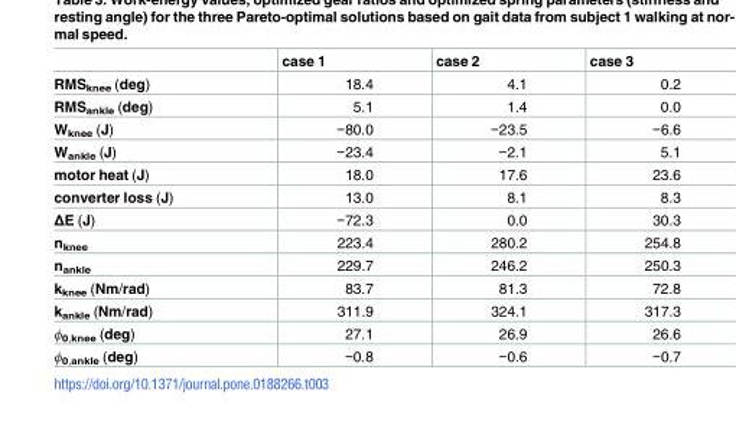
<table><thead><tr><td></td><td>case 1</td><td>case 2</td><td>case 3</td></tr></thead><tbody><tr><td>RMS<sub>knee</sub> (deg)</td><td>18.4</td><td>4.1</td><td>0.2</td></tr><tr><td>RMS<sub>ankle</sub> (deg)</td><td>5.1</td><td>1.4</td><td>0.0</td></tr><tr><td>W<sub>knee</sub> (J)</td><td>−80.0</td><td>−23.5</td><td>−6.6</td></tr><tr><td>W<sub>ankle</sub> (J)</td><td>−23.4</td><td>−2.1</td><td>5.1</td></tr><tr><td>motor heat (J)</td><td>18.0</td><td>17.6</td><td>23.6</td></tr><tr><td>converter loss (J)</td><td>13.0</td><td>8.1</td><td>8.3</td></tr><tr><td>ΔE (J)</td><td>−72.3</td><td>0.0</td><td>30.3</td></tr><tr><td>n<sub>knee</sub></td><td>223.4</td><td>280.2</td><td>254.8</td></tr><tr><td>n<sub>ankle</sub></td><td>229.7</td><td>246.2</td><td>250.3</td></tr><tr><td>k<sub>knee</sub> (Nm/rad)</td><td>83.7</td><td>81.3</td><td>72.8</td></tr><tr><td>k<sub>ankle</sub> (Nm/rad)</td><td>311.9</td><td>324.1</td><td>317.3</td></tr><tr><td>ϕ<sub>0,knee</sub> (deg)</td><td>27.1</td><td>26.9</td><td>26.6</td></tr><tr><td>ϕ<sub>0,ankle</sub> (deg)</td><td>−0.8</td><td>−0.6</td><td>−0.7</td></tr></tbody></table>